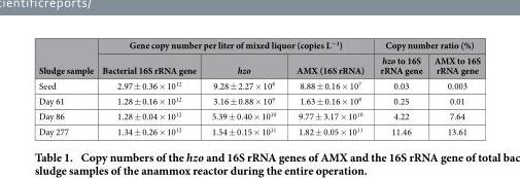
<table><thead><tr><td rowspan="2">Sludge sample</td><td colspan="3">Gene copy number per liter of mixed liquor (copies L<sup>−1</sup>)</td><td colspan="2">Copy number ratio (%)</td></tr><tr><td>Bacterial 16S rRNA gene</td><td>hzo</td><td>AMX (16S rRNA)</td><td>hzo to 16S rRNA gene</td><td>AMX to 16S rRNA gene</td></tr></thead><tbody><tr><td>Seed</td><td>2.97 ± 0.36 × 10<sup>12</sup></td><td>9.28 ± 2.27 × 10<sup>8</sup></td><td>8.88 ± 0.16 × 10<sup>7</sup></td><td>0.03</td><td>0.003</td></tr><tr><td>Day 61</td><td>1.28 ± 0.16 × 10<sup>12</sup></td><td>3.16 ± 0.88 × 10<sup>9</sup></td><td>1.63 ± 0.16 × 10<sup>8</sup></td><td>0.25</td><td>0.01</td></tr><tr><td>Day 86</td><td>1.28 ± 0.04 × 10<sup>12</sup></td><td>5.39 ± 0.40 × 10<sup>10</sup></td><td>9.77 ± 3.17 × 10<sup>10</sup></td><td>4.22</td><td>7.64</td></tr><tr><td>Day 277</td><td>1.34 ± 0.26 × 10<sup>12</sup></td><td>1.54 ± 0.15 × 10<sup>11</sup></td><td>1.82 ± 0.05 × 10<sup>11</sup></td><td>11.46</td><td>13.61</td></tr></tbody></table>